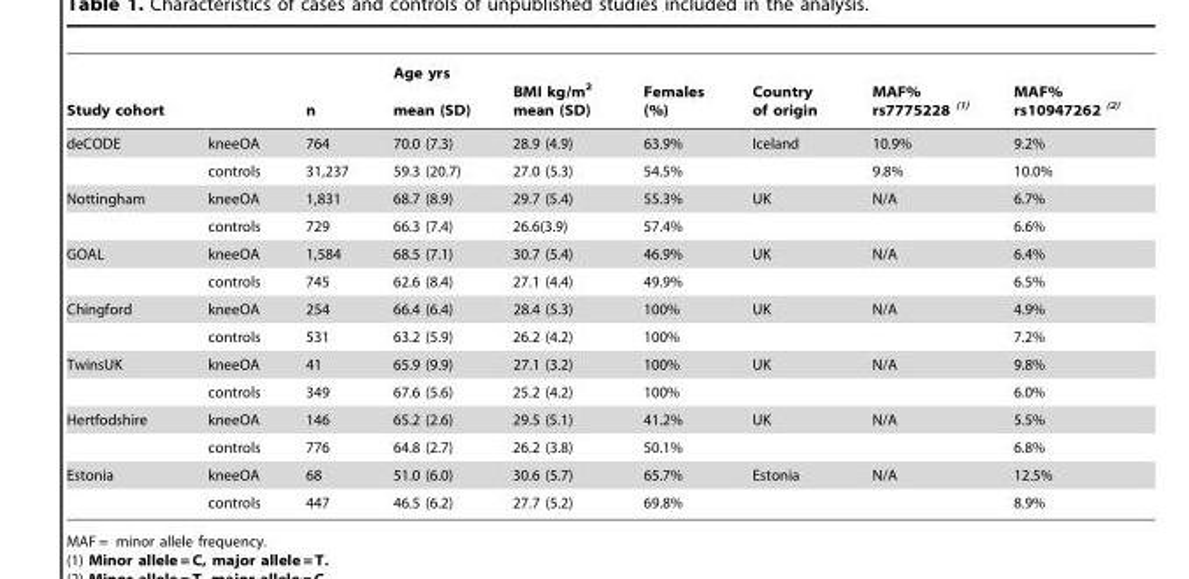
<table><thead><tr><td>Study cohort</td><td></td><td>n</td><td>Age yrs mean (SD)</td><td>BMI kg/m<sup>2</sup> mean (SD)</td><td>Females (%)</td><td>Country of origin</td><td>MAF% rs7775228 <sup>(1)</sup></td><td>MAF% rs10947262 <sup>(2)</sup></td></tr></thead><tbody><tr><td rowspan="2">deCODE</td><td>kneeOA</td><td>764</td><td>70.0 (7.3)</td><td>28.9 (4.9)</td><td>63.9%</td><td>Iceland</td><td>10.9%</td><td>9.2%</td></tr><tr><td>controls</td><td>31,237</td><td>59.3 (20.7)</td><td>27.0 (5.3)</td><td>54.5%</td><td></td><td>9.8%</td><td>10.0%</td></tr><tr><td rowspan="2">Nottingham</td><td>kneeOA</td><td>1,831</td><td>68.7 (8.9)</td><td>29.7 (5.4)</td><td>55.3%</td><td>UK</td><td>N/A</td><td>6.7%</td></tr><tr><td>controls</td><td>729</td><td>66.3 (7.4)</td><td>26.6(3.9)</td><td>57.4%</td><td></td><td></td><td>6.6%</td></tr><tr><td rowspan="2">GOAL</td><td>kneeOA</td><td>1,584</td><td>68.5 (7.1)</td><td>30.7 (5.4)</td><td>46.9%</td><td>UK</td><td>N/A</td><td>6.4%</td></tr><tr><td>controls</td><td>745</td><td>62.6 (8.4)</td><td>27.1 (4.4)</td><td>49.9%</td><td></td><td></td><td>6.5%</td></tr><tr><td rowspan="2">Chingford</td><td>kneeOA</td><td>254</td><td>66.4 (6.4)</td><td>28.4 (5.3)</td><td>100%</td><td>UK</td><td>N/A</td><td>4.9%</td></tr><tr><td>controls</td><td>531</td><td>63.2 (5.9)</td><td>26.2 (4.2)</td><td>100%</td><td></td><td></td><td>7.2%</td></tr><tr><td rowspan="2">TwinsUK</td><td>kneeOA</td><td>41</td><td>65.9 (9.9)</td><td>27.1 (3.2)</td><td>100%</td><td>UK</td><td>N/A</td><td>9.8%</td></tr><tr><td>controls</td><td>349</td><td>67.6 (5.6)</td><td>25.2 (4.2)</td><td>100%</td><td></td><td></td><td>6.0%</td></tr><tr><td rowspan="2">Hertfodshire</td><td>kneeOA</td><td>146</td><td>65.2 (2.6)</td><td>29.5 (5.1)</td><td>41.2%</td><td>UK</td><td>N/A</td><td>5.5%</td></tr><tr><td>controls</td><td>776</td><td>64.8 (2.7)</td><td>26.2 (3.8)</td><td>50.1%</td><td></td><td></td><td>6.8%</td></tr><tr><td rowspan="2">Estonia</td><td>kneeOA</td><td>68</td><td>51.0 (6.0)</td><td>30.6 (5.7)</td><td>65.7%</td><td>Estonia</td><td>N/A</td><td>12.5%</td></tr><tr><td>controls</td><td>447</td><td>46.5 (6.2)</td><td>27.7 (5.2)</td><td>69.8%</td><td></td><td></td><td>8.9%</td></tr></tbody></table>